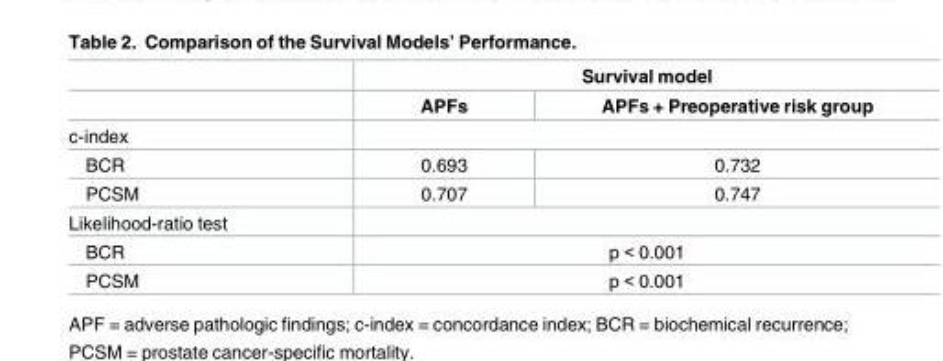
<table><thead><tr><td rowspan="2"></td><td colspan="2">Survival model</td></tr><tr><td>APFs</td><td>APFs + Preoperative risk group</td></tr></thead><tbody><tr><td colspan="3">c-index</td></tr><tr><td>BCR</td><td>0.693</td><td>0.732</td></tr><tr><td>PCSM</td><td>0.707</td><td>0.747</td></tr><tr><td colspan="3">Likelihood-ratio test</td></tr><tr><td>BCR</td><td colspan="2">p &lt; 0.001</td></tr><tr><td>PCSM</td><td colspan="2">p &lt; 0.001</td></tr></tbody></table>